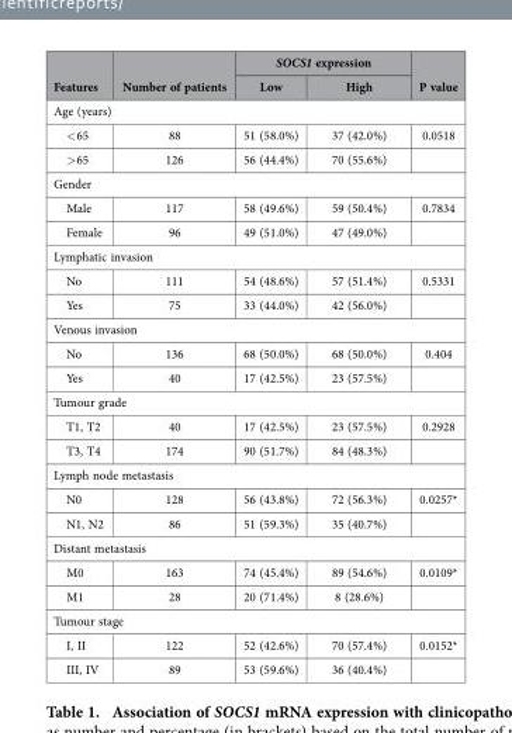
<table><thead><tr><td rowspan="2">Features</td><td rowspan="2">Number of patients</td><td colspan="2">SOCS1 expression</td><td rowspan="2">P value</td></tr><tr><td>Low</td><td>High</td></tr></thead><tbody><tr><td colspan="5">Age (years)</td></tr><tr><td>&lt; 65</td><td>88</td><td>51 (58.0%)</td><td>37 (42.0%)</td><td>0.0518</td></tr><tr><td>&gt; 65</td><td>126</td><td>56 (44.4%)</td><td>70 (55.6%)</td><td></td></tr><tr><td colspan="5">Gender</td></tr><tr><td>Male</td><td>117</td><td>58 (49.6%)</td><td>59 (50.4%)</td><td>0.7834</td></tr><tr><td>Female</td><td>96</td><td>49 (51.0%)</td><td>47 (49.0%)</td><td></td></tr><tr><td colspan="5">Lymphatic invasion</td></tr><tr><td>No</td><td>111</td><td>54 (48.6%)</td><td>57 (51.4%)</td><td>0.5331</td></tr><tr><td>Yes</td><td>75</td><td>33 (44.0%)</td><td>42 (56.0%)</td><td></td></tr><tr><td colspan="5">Venous invasion</td></tr><tr><td>No</td><td>136</td><td>68 (50.0%)</td><td>68 (50.0%)</td><td>0.404</td></tr><tr><td>Yes</td><td>40</td><td>17 (42.5%)</td><td>23 (57.5%)</td><td></td></tr><tr><td colspan="5">Tumour grade</td></tr><tr><td>T1, T2</td><td>40</td><td>17 (42.5%)</td><td>23 (57.5%)</td><td>0.2928</td></tr><tr><td>T3, T4</td><td>174</td><td>90 (51.7%)</td><td>84 (48.3%)</td><td></td></tr><tr><td colspan="5">Lymph node metastasis</td></tr><tr><td>N0</td><td>128</td><td>56 (43.8%)</td><td>72 (56.3%)</td><td>0.0257*</td></tr><tr><td>N1, N2</td><td>86</td><td>51 (59.3%)</td><td>35 (40.7%)</td><td></td></tr><tr><td colspan="5">Distant metastasis</td></tr><tr><td>M0</td><td>163</td><td>74 (45.4%)</td><td>89 (54.6%)</td><td>0.0109*</td></tr><tr><td>M1</td><td>28</td><td>20 (71.4%)</td><td>8 (28.6%)</td><td></td></tr><tr><td colspan="5">Tumour stage</td></tr><tr><td>I, II</td><td>122</td><td>52 (42.6%)</td><td>70 (57.4%)</td><td>0.0152*</td></tr><tr><td>III, IV</td><td>89</td><td>53 (59.6%)</td><td>36 (40.4%)</td><td></td></tr></tbody></table>